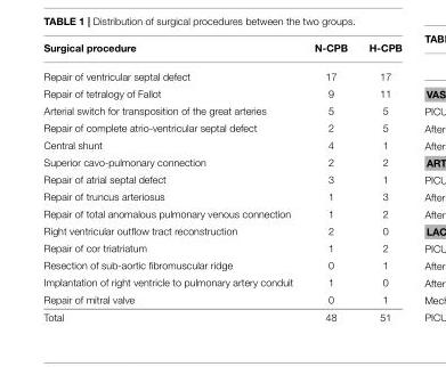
<table><thead><tr><td>Surgical procedure</td><td>N-CPB</td><td>H-CPB</td></tr></thead><tbody><tr><td>Repair of ventricular septal defect</td><td>17</td><td>17</td></tr><tr><td>Repair of tetralogy of Fallot</td><td>9</td><td>11</td></tr><tr><td>Arterial switch for transposition of the great arteries</td><td>5</td><td>5</td></tr><tr><td>Repair of complete atrio-ventricular septal defect</td><td>2</td><td>5</td></tr><tr><td>Central shunt</td><td>4</td><td>1</td></tr><tr><td>Superior cavo-pulmonary connection</td><td>2</td><td>2</td></tr><tr><td>Repair of atrial septal defect</td><td>3</td><td>1</td></tr><tr><td>Repair of truncus arteriosus</td><td>1</td><td>3</td></tr><tr><td>Repair of total anomalous pulmonary venous connection</td><td>1</td><td>2</td></tr><tr><td>Right ventricular outflow tract reconstruction</td><td>2</td><td>0</td></tr><tr><td>Repair of cor triatriatum</td><td>1</td><td>2</td></tr><tr><td>Resection of sub-aortic fibromuscular ridge</td><td>0</td><td>1</td></tr><tr><td>Implantation of right ventricle to pulmonary artery conduit</td><td>1</td><td>0</td></tr><tr><td>Repair of mitral valve</td><td>0</td><td>1</td></tr><tr><td>Total</td><td>48</td><td>51</td></tr></tbody></table>